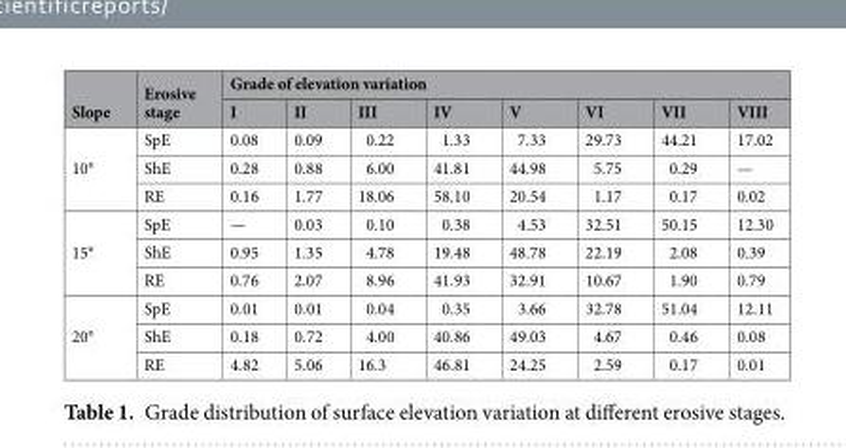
<table><thead><tr><td rowspan="2">Slope</td><td rowspan="2">Erosive stage</td><td colspan="8">Grade of elevation variation</td></tr><tr><td>I</td><td>II</td><td>III</td><td>IV</td><td>V</td><td>VI</td><td>VII</td><td>VIII</td></tr></thead><tbody><tr><td rowspan="3">10°</td><td>SpE</td><td>0.08</td><td>0.09</td><td>0.22</td><td>1.33</td><td>7.33</td><td>29.73</td><td>44.21</td><td>17.02</td></tr><tr><td>ShE</td><td>0.28</td><td>0.88</td><td>6.00</td><td>41.81</td><td>44.98</td><td>5.75</td><td>0.29</td><td>—</td></tr><tr><td>RE</td><td>0.16</td><td>1.77</td><td>18.06</td><td>58.10</td><td>20.54</td><td>1.17</td><td>0.17</td><td>0.02</td></tr><tr><td rowspan="3">15°</td><td>SpE</td><td>—</td><td>0.03</td><td>0.10</td><td>0.38</td><td>4.53</td><td>32.51</td><td>50.15</td><td>12.30</td></tr><tr><td>ShE</td><td>0.95</td><td>1.35</td><td>4.78</td><td>19.48</td><td>48.78</td><td>22.19</td><td>2.08</td><td>0.39</td></tr><tr><td>RE</td><td>0.76</td><td>2.07</td><td>8.96</td><td>41.93</td><td>32.91</td><td>10.67</td><td>1.90</td><td>0.79</td></tr><tr><td rowspan="3">20°</td><td>SpE</td><td>0.01</td><td>0.01</td><td>0.04</td><td>0.35</td><td>3.66</td><td>32.78</td><td>51.04</td><td>12.11</td></tr><tr><td>ShE</td><td>0.18</td><td>0.72</td><td>4.00</td><td>40.86</td><td>49.03</td><td>4.67</td><td>0.46</td><td>0.08</td></tr><tr><td>RE</td><td>4.82</td><td>5.06</td><td>16.3</td><td>46.81</td><td>24.25</td><td>2.59</td><td>0.17</td><td>0.01</td></tr></tbody></table>